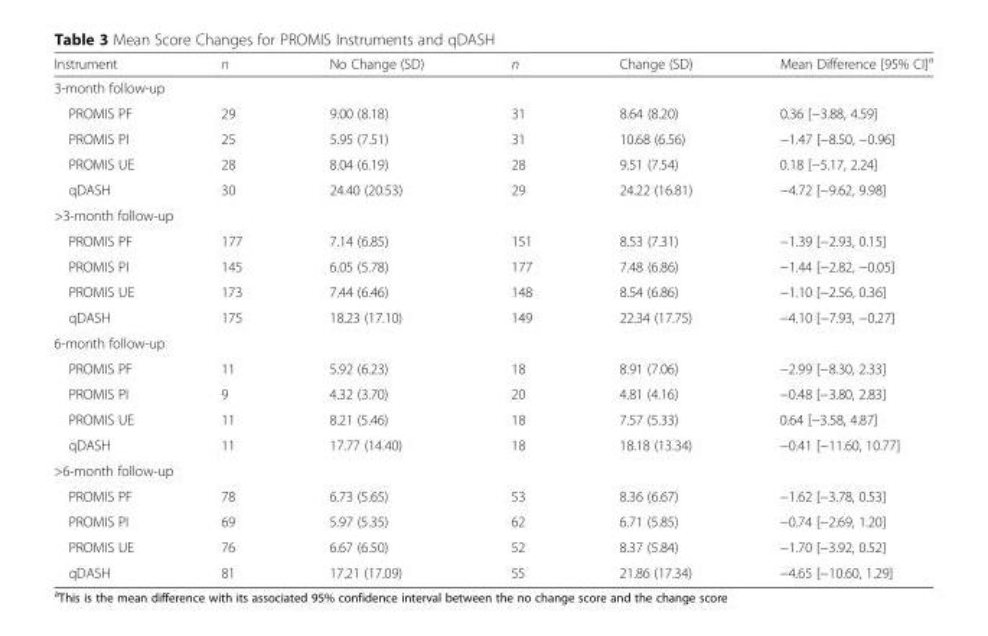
<table><thead><tr><td>Instrument</td><td>n</td><td>No Change (SD)</td><td>n</td><td>Change (SD)</td><td>Mean Difference [95% CI]<sup>a</sup></td></tr></thead><tbody><tr><td colspan="6">3-month follow-up</td></tr><tr><td>PROMIS PF</td><td>29</td><td>9.00 (8.18)</td><td>31</td><td>8.64 (8.20)</td><td>0.36 [−3.88, 4.59]</td></tr><tr><td>PROMIS PI</td><td>25</td><td>5.95 (7.51)</td><td>31</td><td>10.68 (6.56)</td><td>−1.47 [−8.50, −0.96]</td></tr><tr><td>PROMIS UE</td><td>28</td><td>8.04 (6.19)</td><td>28</td><td>9.51 (7.54)</td><td>0.18 [−5.17, 2.24]</td></tr><tr><td>qDASH</td><td>30</td><td>24.40 (20.53)</td><td>29</td><td>24.22 (16.81)</td><td>−4.72 [−9.62, 9.98]</td></tr><tr><td colspan="6">&gt;3-month follow-up</td></tr><tr><td>PROMIS PF</td><td>177</td><td>7.14 (6.85)</td><td>151</td><td>8.53 (7.31)</td><td>−1.39 [−2.93, 0.15]</td></tr><tr><td>PROMIS PI</td><td>145</td><td>6.05 (5.78)</td><td>177</td><td>7.48 (6.86)</td><td>−1.44 [−2.82, −0.05]</td></tr><tr><td>PROMIS UE</td><td>173</td><td>7.44 (6.46)</td><td>148</td><td>8.54 (6.86)</td><td>−1.10 [−2.56, 0.36]</td></tr><tr><td>qDASH</td><td>175</td><td>18.23 (17.10)</td><td>149</td><td>22.34 (17.75)</td><td>−4.10 [−7.93, −0.27]</td></tr><tr><td colspan="6">6-month follow-up</td></tr><tr><td>PROMIS PF</td><td>11</td><td>5.92 (6.23)</td><td>18</td><td>8.91 (7.06)</td><td>−2.99 [−8.30, 2.33]</td></tr><tr><td>PROMIS PI</td><td>9</td><td>4.32 (3.70)</td><td>20</td><td>4.81 (4.16)</td><td>−0.48 [−3.80, 2.83]</td></tr><tr><td>PROMIS UE</td><td>11</td><td>8.21 (5.46)</td><td>18</td><td>7.57 (5.33)</td><td>0.64 [−3.58, 4.87]</td></tr><tr><td>qDASH</td><td>11</td><td>17.77 (14.40)</td><td>18</td><td>18.18 (13.34)</td><td>−0.41 [−11.60, 10.77]</td></tr><tr><td colspan="6">&gt;6-month follow-up</td></tr><tr><td>PROMIS PF</td><td>78</td><td>6.73 (5.65)</td><td>53</td><td>8.36 (6.67)</td><td>−1.62 [−3.78, 0.53]</td></tr><tr><td>PROMIS PI</td><td>69</td><td>5.97 (5.35)</td><td>62</td><td>6.71 (5.85)</td><td>−0.74 [−2.69, 1.20]</td></tr><tr><td>PROMIS UE</td><td>76</td><td>6.67 (6.50)</td><td>52</td><td>8.37 (5.84)</td><td>−1.70 [−3.92, 0.52]</td></tr><tr><td>qDASH</td><td>81</td><td>17.21 (17.09)</td><td>55</td><td>21.86 (17.34)</td><td>−4.65 [−10.60, 1.29]</td></tr></tbody></table>